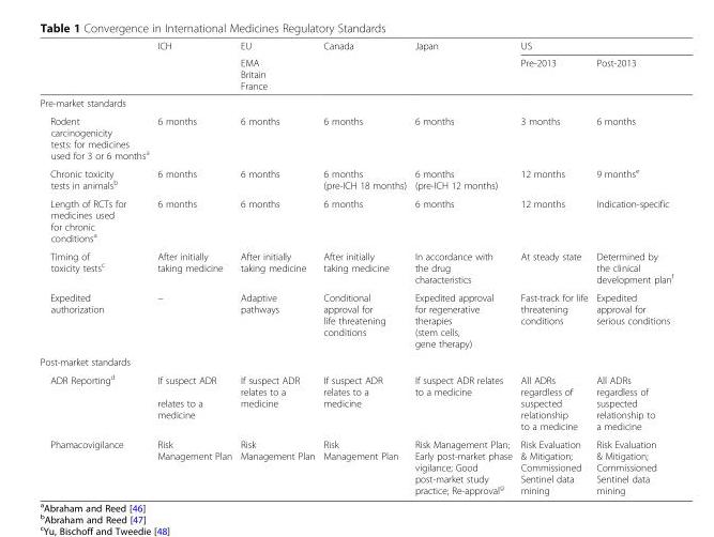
<table><thead><tr><td rowspan="2"></td><td rowspan="2">ICH</td><td rowspan="2">EU EMA Britain France</td><td rowspan="2">Canada</td><td rowspan="2">Japan</td><td colspan="2">US</td></tr><tr><td>Pre-2013</td><td>Post-2013</td></tr></thead><tbody><tr><td colspan="7">Pre-market standards</td></tr><tr><td>Rodent carcinogenicity tests: for medicines used for 3 or 6 months<sup>a</sup></td><td>6 months</td><td>6 months</td><td>6 months</td><td>6 months</td><td>3 months</td><td>6 months</td></tr><tr><td>Chronic toxicity tests in animals<sup>b</sup></td><td>6 months</td><td>6 months</td><td>6 months (pre-ICH 18 months)</td><td>6 months (pre-ICH 12 months)</td><td>12 months</td><td>9 months<sup>e</sup></td></tr><tr><td>Length of RCTs for medicines used for chronic conditions<sup>a</sup></td><td>6 months</td><td>6 months</td><td>6 months</td><td>6 months</td><td>12 months</td><td>Indication-specific</td></tr><tr><td>Timing of toxicity tests<sup>c</sup></td><td>After initially taking medicine</td><td>After initially taking medicine</td><td>After initially taking medicine</td><td>In accordance with the drug characteristics</td><td>At steady state</td><td>Determined by the clinical development plan<sup>f</sup></td></tr><tr><td>Expedited authorization</td><td>–</td><td>Adaptive pathways</td><td>Conditional approval for life threatening conditions</td><td>Expedited approval for regenerative therapies (stem cells, gene therapy)</td><td>Fast-track for life threatening conditions</td><td>Expedited approval for serious conditions</td></tr><tr><td colspan="7">Post-market standards</td></tr><tr><td>ADR Reporting<sup>d</sup></td><td>If suspect ADR relates to a medicine</td><td>If suspect ADR relates to a medicine</td><td>If suspect ADR relates to a medicine</td><td>If suspect ADR relates to a medicine</td><td>All ADRs regardless of suspected relationship to a medicine</td><td>All ADRs regardless of suspected relationship to a medicine</td></tr><tr><td>Phamacovigilance</td><td>Risk Management Plan</td><td>Risk Management Plan</td><td>Risk Management Plan</td><td>Risk Management Plan; Early post-market phase vigilance; Good post-market study practice; Re-approval<sup>g</sup></td><td>Risk Evaluation &amp; Mitigation; Commissioned Sentinel data mining</td><td>Risk Evaluation &amp; Mitigation; Commissioned Sentinel data mining</td></tr></tbody></table>